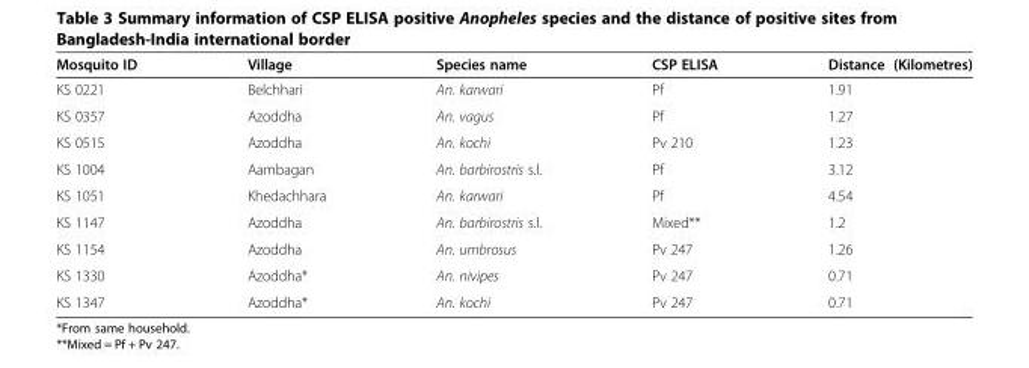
<table><thead><tr><td>Mosquito ID</td><td>Village</td><td>Species name</td><td>CSP ELISA</td><td>Distance (Kilometres)</td></tr></thead><tbody><tr><td>KS 0221</td><td>Belchhari</td><td>An. karwari</td><td>Pf</td><td>1.91</td></tr><tr><td>KS 0357</td><td>Azoddha</td><td>An. vagus</td><td>Pf</td><td>1.27</td></tr><tr><td>KS 0515</td><td>Azoddha</td><td>An. kochi</td><td>Pv 210</td><td>1.23</td></tr><tr><td>KS 1004</td><td>Aambagan</td><td>An. barbirostris s.l.</td><td>Pf</td><td>3.12</td></tr><tr><td>KS 1051</td><td>Khedachhara</td><td>An. karwari</td><td>Pf</td><td>4.54</td></tr><tr><td>KS 1147</td><td>Azoddha</td><td>An. barbirostris s.l.</td><td>Mixed**</td><td>1.2</td></tr><tr><td>KS 1154</td><td>Azoddha</td><td>An. umbrosus</td><td>Pv 247</td><td>1.26</td></tr><tr><td>KS 1330</td><td>Azoddha*</td><td>An. nivipes</td><td>Pv 247</td><td>0.71</td></tr><tr><td>KS 1347</td><td>Azoddha*</td><td>An. kochi</td><td>Pv 247</td><td>0.71</td></tr></tbody></table>